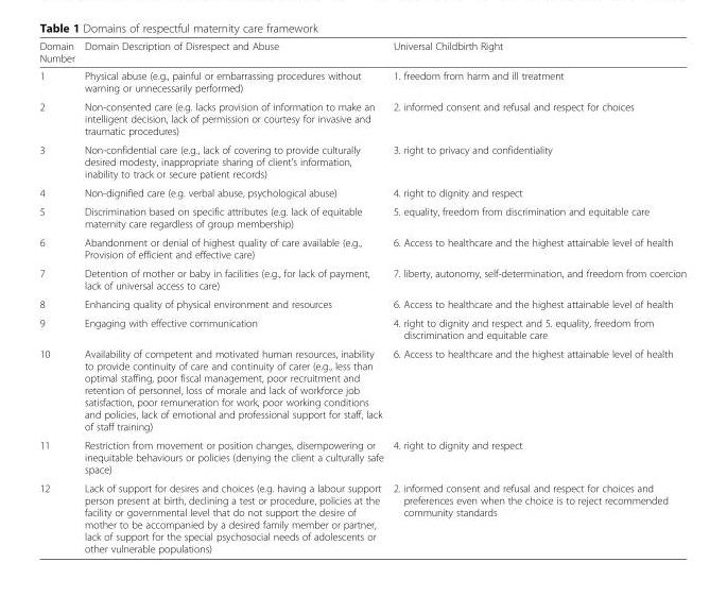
<table><thead><tr><td>Domain Number</td><td>Domain Description of Disrespect and Abuse</td><td>Universal Childbirth Right</td></tr></thead><tbody><tr><td>1</td><td>Physical abuse (e.g., painful or embarrassing procedures without warning or unnecessarily performed)</td><td>1. freedom from harm and ill treatment</td></tr><tr><td>2</td><td>Non-consented care (e.g. lacks provision of information to make an intelligent decision, lack of permission or courtesy for invasive and traumatic procedures)</td><td>2. informed consent and refusal and respect for choices</td></tr><tr><td>3</td><td>Non-confidential care (e.g., lack of covering to provide culturally desired modesty, inappropriate sharing of client’s information, inability to track or secure patient records)</td><td>3. right to privacy and confidentiality</td></tr><tr><td>4</td><td>Non-dignified care (e.g. verbal abuse, psychological abuse)</td><td>4. right to dignity and respect</td></tr><tr><td>5</td><td>Discrimination based on specific attributes (e.g. lack of equitable maternity care regardless of group membership)</td><td>5. equality, freedom from discrimination and equitable care</td></tr><tr><td>6</td><td>Abandonment or denial of highest quality of care available (e.g., Provision of efficient and effective care)</td><td>6. Access to healthcare and the highest attainable level of health</td></tr><tr><td>7</td><td>Detention of mother or baby in facilities (e.g., for lack of payment, lack of universal access to care)</td><td>7. liberty, autonomy, self-determination, and freedom from coercion</td></tr><tr><td>8</td><td>Enhancing quality of physical environment and resources</td><td>6. Access to healthcare and the highest attainable level of health</td></tr><tr><td>9</td><td>Engaging with effective communication</td><td>4. right to dignity and respect and 5. equality, freedom from discrimination and equitable care</td></tr><tr><td>10</td><td>Availability of competent and motivated human resources, inability to provide continuity of care and continuity of carer (e.g., less than optimal staffing, poor fiscal management, poor recruitment and retention of personnel, loss of morale and lack of workforce job satisfaction, poor remuneration for work, poor working conditions and policies, lack of emotional and professional support for staff, lack of staff training)</td><td>6. Access to healthcare and the highest attainable level of health</td></tr><tr><td>11</td><td>Restriction from movement or position changes, disempowering or inequitable behaviours or policies (denying the client a culturally safe space)</td><td>4. right to dignity and respect</td></tr><tr><td>12</td><td>Lack of support for desires and choices (e.g. having a labour support person present at birth, declining a test or procedure, policies at the facility or governmental level that do not support the desire of mother to be accompanied by a desired family member or partner, lack of support for the special psychosocial needs of adolescents or other vulnerable populations)</td><td>2. informed consent and refusal and respect for choices and preferences even when the choice is to reject recommended community standards</td></tr></tbody></table>